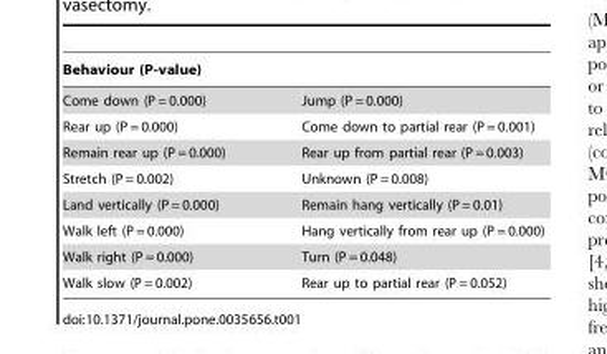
<table><thead><tr><td colspan="2">Behaviour (P-value)</td></tr><tr><td>Come down (P = 0.000)</td><td>Jump (P = 0.000)</td></tr></thead><tbody><tr><td>Rear up (P = 0.000)</td><td>Come down to partial rear (P = 0.001)</td></tr><tr><td>Remain rear up (P = 0.000)</td><td>Rear up from partial rear (P = 0.003)</td></tr><tr><td>Stretch (P = 0.002)</td><td>Unknown (P = 0.008)</td></tr><tr><td>Land vertically (P = 0.000)</td><td>Remain hang vertically (P = 0.01)</td></tr><tr><td>Walk left (P = 0.000)</td><td>Hang vertically from rear up (P = 0.000)</td></tr><tr><td>Walk right (P = 0.000)</td><td>Turn (P = 0.048)</td></tr><tr><td>Walk slow (P = 0.002)</td><td>Rear up to partial rear (P = 0.052)</td></tr></tbody></table>